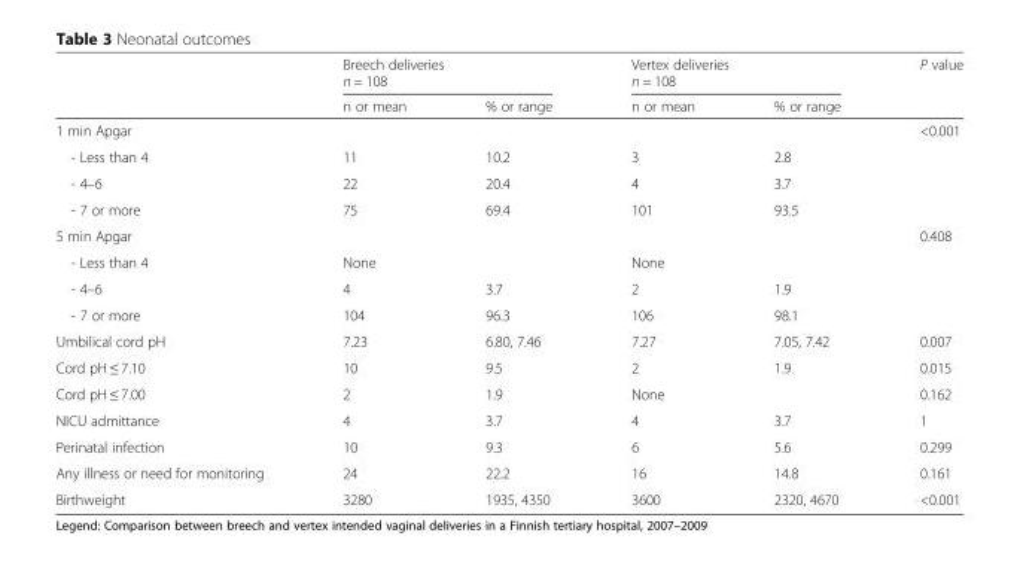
<table><thead><tr><td rowspan="2"></td><td colspan="2">Breech deliveries n = 108</td><td colspan="2">Vertex deliveries n = 108</td><td rowspan="2">P value</td></tr><tr><td>n or mean</td><td>% or range</td><td>n or mean</td><td>% or range</td></tr></thead><tbody><tr><td>1 min Apgar</td><td></td><td></td><td></td><td></td><td>&lt;0.001</td></tr><tr><td>- Less than 4</td><td>11</td><td>10.2</td><td>3</td><td>2.8</td><td></td></tr><tr><td>- 4–6</td><td>22</td><td>20.4</td><td>4</td><td>3.7</td><td></td></tr><tr><td>- 7 or more</td><td>75</td><td>69.4</td><td>101</td><td>93.5</td><td></td></tr><tr><td>5 min Apgar</td><td></td><td></td><td></td><td></td><td>0.408</td></tr><tr><td>- Less than 4</td><td>None</td><td></td><td>None</td><td></td><td></td></tr><tr><td>- 4–6</td><td>4</td><td>3.7</td><td>2</td><td>1.9</td><td></td></tr><tr><td>- 7 or more</td><td>104</td><td>96.3</td><td>106</td><td>98.1</td><td></td></tr><tr><td>Umbilical cord pH</td><td>7.23</td><td>6.80, 7.46</td><td>7.27</td><td>7.05, 7.42</td><td>0.007</td></tr><tr><td>Cord pH ≤ 7.10</td><td>10</td><td>9.5</td><td>2</td><td>1.9</td><td>0.015</td></tr><tr><td>Cord pH ≤ 7.00</td><td>2</td><td>1.9</td><td>None</td><td></td><td>0.162</td></tr><tr><td>NICU admittance</td><td>4</td><td>3.7</td><td>4</td><td>3.7</td><td>1</td></tr><tr><td>Perinatal infection</td><td>10</td><td>9.3</td><td>6</td><td>5.6</td><td>0.299</td></tr><tr><td>Any illness or need for monitoring</td><td>24</td><td>22.2</td><td>16</td><td>14.8</td><td>0.161</td></tr><tr><td>Birthweight</td><td>3280</td><td>1935, 4350</td><td>3600</td><td>2320, 4670</td><td>&lt;0.001</td></tr></tbody></table>